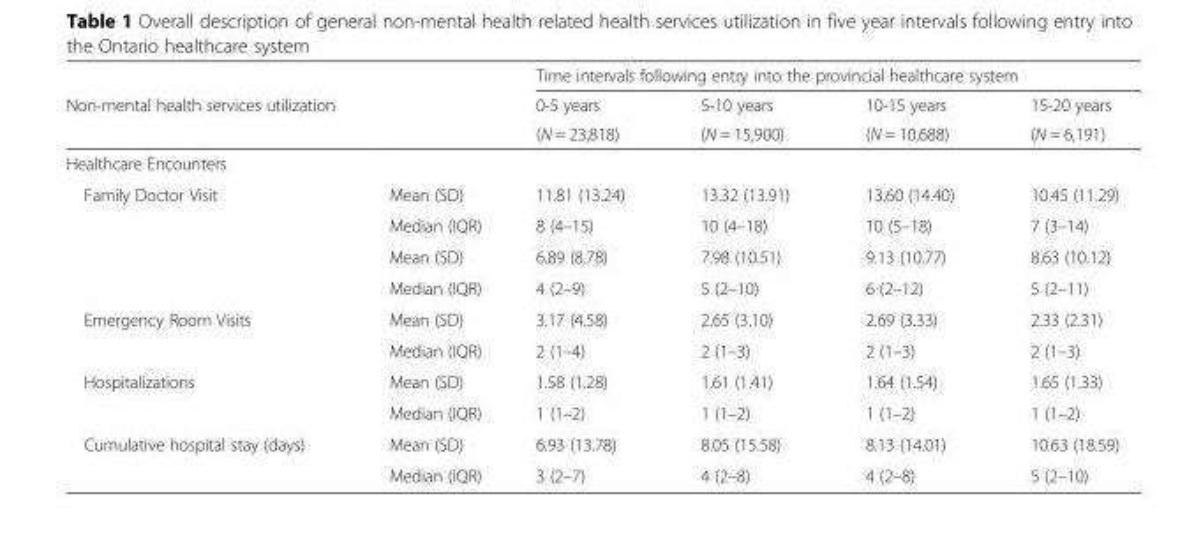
<table><thead><tr><td rowspan="3">Non-mental health services utilization</td><td rowspan="3"></td><td colspan="4">Time intervals following entry into the provincial healthcare system</td></tr><tr><td rowspan="2">0-5 years (N = 23,818)</td><td rowspan="2">5-10 years (N = 15,900)</td><td rowspan="2">10-15 years (N = 10,688)</td><td rowspan="2">15-20 years (N = 6,191)</td></tr><tr></tr></thead><tbody><tr><td colspan="6">Healthcare Encounters</td></tr><tr><td rowspan="4">Family Doctor Visit</td><td>Mean (SD)</td><td>11.81 (13.24)</td><td>13.32 (13.91)</td><td>13.60 (14.40)</td><td>10.45 (11.29)</td></tr><tr><td>Median (IQR)</td><td>8 (4–15)</td><td>10 (4–18)</td><td>10 (5–18)</td><td>7 (3–14)</td></tr><tr><td>Mean (SD)</td><td>6.89 (8.78)</td><td>7.98 (10.51)</td><td>9.13 (10.77)</td><td>8.63 (10.12)</td></tr><tr><td>Median (IQR)</td><td>4 (2–9)</td><td>5 (2–10)</td><td>6 (2–12)</td><td>5 (2–11)</td></tr><tr><td rowspan="2">Emergency Room Visits</td><td>Mean (SD)</td><td>3.17 (4.58)</td><td>2.65 (3.10)</td><td>2.69 (3.33)</td><td>2.33 (2.31)</td></tr><tr><td>Median (IQR)</td><td>2 (1–4)</td><td>2 (1–3)</td><td>2 (1–3)</td><td>2 (1–3)</td></tr><tr><td rowspan="2">Hospitalizations</td><td>Mean (SD)</td><td>1.58 (1.28)</td><td>1.61 (1.41)</td><td>1.64 (1.54)</td><td>1.65 (1.33)</td></tr><tr><td>Median (IQR)</td><td>1 (1–2)</td><td>1 (1–2)</td><td>1 (1–2)</td><td>1 (1–2)</td></tr><tr><td rowspan="2">Cumulative hospital stay (days)</td><td>Mean (SD)</td><td>6.93 (13.78)</td><td>8.05 (15.58)</td><td>8.13 (14.01)</td><td>10.63 (18.59)</td></tr><tr><td>Median (IQR)</td><td>3 (2–7)</td><td>4 (2–8)</td><td>4 (2–8)</td><td>5 (2–10)</td></tr></tbody></table>